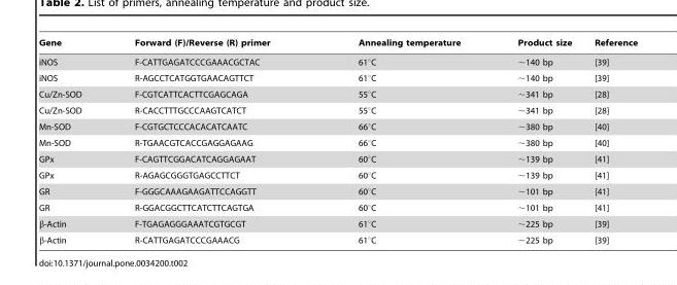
<table><thead><tr><td>Gene</td><td>Forward (F)/Reverse (R) primer</td><td>Annealing temperature</td><td>Product size</td><td>Reference</td></tr></thead><tbody><tr><td>iNOS</td><td>F-CATTGAGATCCCGAAACGCTAC</td><td>61°C</td><td>∼140 bp</td><td>[39]</td></tr><tr><td>iNOS</td><td>R-AGCCTCATGGTGAACAGTTCT</td><td>61°C</td><td>∼140 bp</td><td>[39]</td></tr><tr><td>Cu/Zn-SOD</td><td>F-CGTCATTCACTTCGAGCAGA</td><td>55°C</td><td>∼341 bp</td><td>[28]</td></tr><tr><td>Cu/Zn-SOD</td><td>R-CACCTTTGCCCAAGTCATCT</td><td>55°C</td><td>∼341 bp</td><td>[28]</td></tr><tr><td>Mn-SOD</td><td>F-CGTGCTCCCACACATCAATC</td><td>66°C</td><td>∼380 bp</td><td>[40]</td></tr><tr><td>Mn-SOD</td><td>R-TGAACGTCACCGAGGAGAAG</td><td>66°C</td><td>∼380 bp</td><td>[40]</td></tr><tr><td>GPx</td><td>F-CAGTTCGGACATCAGGAGAAT</td><td>60°C</td><td>∼139 bp</td><td>[41]</td></tr><tr><td>GPx</td><td>R-AGAGCGGGTGAGCCTTCT</td><td>60°C</td><td>∼139 bp</td><td>[41]</td></tr><tr><td>GR</td><td>F-GGGCAAAGAAGATTCCAGGTT</td><td>60°C</td><td>∼101 bp</td><td>[41]</td></tr><tr><td>GR</td><td>R-GGACGGCTTCATCTTCAGTGA</td><td>60°C</td><td>∼101 bp</td><td>[41]</td></tr><tr><td>β-Actin</td><td>F-TGAGAGGGAAATCGTGCGT</td><td>61°C</td><td>∼225 bp</td><td>[39]</td></tr><tr><td>β-Actin</td><td>R-CATTGAGATCCCGAAACG</td><td>61°C</td><td>∼225 bp</td><td>[39]</td></tr></tbody></table>